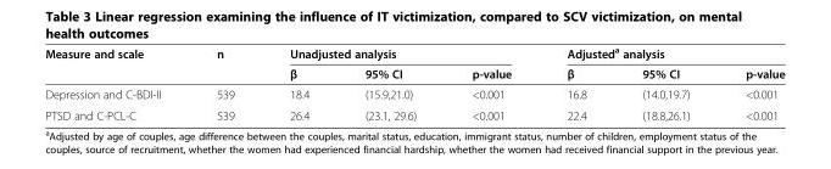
<table><thead><tr><td rowspan="2">Measure and scale</td><td rowspan="2">n</td><td colspan="3">Unadjusted analysis</td><td colspan="3">Adjusted<sup>a</sup> analysis</td></tr><tr><td>β</td><td>95% CI</td><td>p-value</td><td>β</td><td>95% CI</td><td>p-value</td></tr></thead><tbody><tr><td>Depression and C-BDI-II</td><td>539</td><td>18.4</td><td>(15.9,21.0)</td><td>&lt;0.001</td><td>16.8</td><td>(14.0,19.7)</td><td>&lt;0.001</td></tr><tr><td>PTSD and C-PCL-C</td><td>539</td><td>26.4</td><td>(23.1, 29.6)</td><td>&lt;0.001</td><td>22.4</td><td>(18.8,26.1)</td><td>&lt;0.001</td></tr></tbody></table>